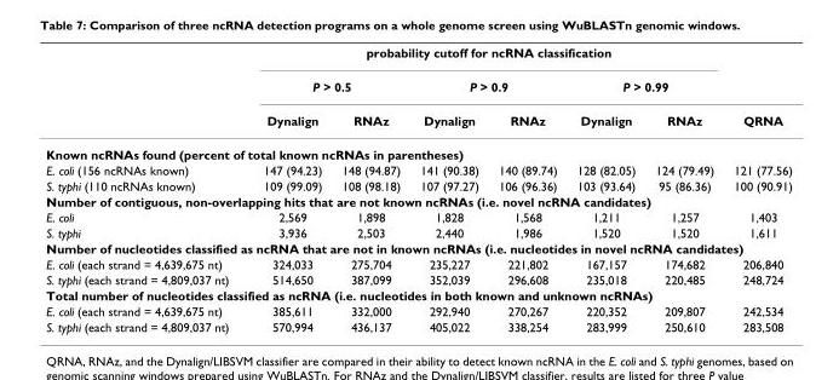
<table><thead><tr><td rowspan="3"></td><td colspan="6">probability cutoff for ncRNA classification</td><td rowspan="3">QRNA</td></tr><tr><td colspan="2">P &gt; 0.5</td><td colspan="2">P &gt; 0.9</td><td colspan="2">P &gt; 0.99</td></tr><tr><td>Dynalign</td><td>RNAz</td><td>Dynalign</td><td>RNAz</td><td>Dynalign</td><td>RNAz</td></tr></thead><tbody><tr><td colspan="8">Known ncRNAs found (percent of total known ncRNAs in parentheses)</td></tr><tr><td>E. coli (156 ncRNAs known)</td><td>147 (94.23)</td><td>148 (94.87)</td><td>141 (90.38)</td><td>140 (89.74)</td><td>128 (82.05)</td><td>124 (79.49)</td><td>121 (77.56)</td></tr><tr><td>S. typhi (110 ncRNAs known)</td><td>109 (99.09)</td><td>108 (98.18)</td><td>107 (97.27)</td><td>106 (96.36)</td><td>103 (93.64)</td><td>95 (86.36)</td><td>100 (90.91)</td></tr><tr><td colspan="8">Number of contiguous, non-overlapping hits that are not known ncRNAs (i.e. novel ncRNA candidates)</td></tr><tr><td>E. coli</td><td>2,569</td><td>1,898</td><td>1,828</td><td>1,568</td><td>1,211</td><td>1,257</td><td>1,403</td></tr><tr><td>S. typhi</td><td>3,936</td><td>2,503</td><td>2,440</td><td>1,986</td><td>1,520</td><td>1,520</td><td>1,611</td></tr><tr><td colspan="8">Number of nucleotides classified as ncRNA that are not in known ncRNAs (i.e. nucleotides in novel ncRNA candidates)</td></tr><tr><td>E. coli (each strand = 4,639,675 nt)</td><td>324,033</td><td>275,704</td><td>235,227</td><td>221,802</td><td>167,157</td><td>174,682</td><td>206,840</td></tr><tr><td>S. typhi (each strand = 4,809,037 nt)</td><td>514,650</td><td>387,099</td><td>352,039</td><td>296,608</td><td>235,018</td><td>220,485</td><td>248,724</td></tr><tr><td colspan="8">Total number of nucleotides classified as ncRNA (i.e. nucleotides in both known and unknown ncRNAs)</td></tr><tr><td>E. coli (each strand = 4,639,675 nt)</td><td>385,611</td><td>332,000</td><td>292,940</td><td>270,267</td><td>220,352</td><td>209,807</td><td>242,534</td></tr><tr><td>S. typhi (each strand = 4,809,037 nt)</td><td>570,994</td><td>436,137</td><td>405,022</td><td>338,254</td><td>283,999</td><td>250,610</td><td>283,508</td></tr></tbody></table>